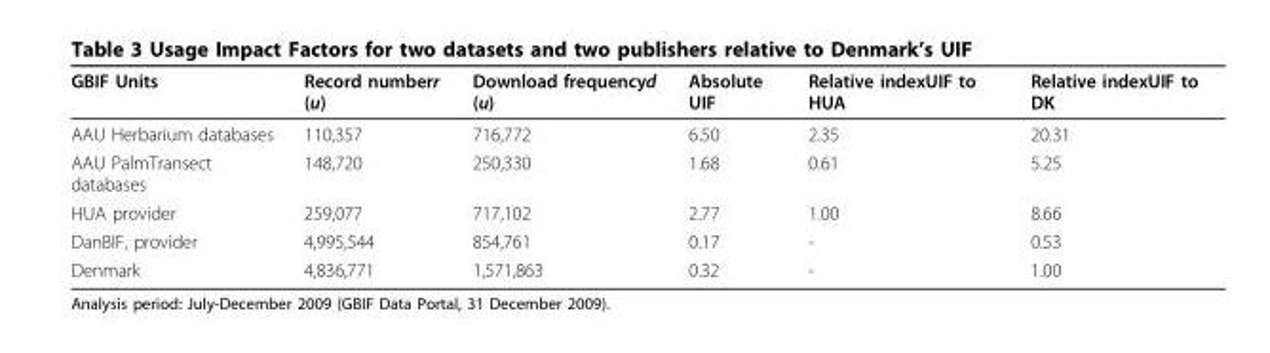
<table><thead><tr><td>GBIF Units</td><td>Record numberr (u)</td><td>Download frequencyd (u)</td><td>Absolute UIF</td><td>Relative indexUIF to HUA</td><td>Relative indexUIF to DK</td></tr></thead><tbody><tr><td>AAU Herbarium databases</td><td>110,357</td><td>716,772</td><td>6.50</td><td>2.35</td><td>20.31</td></tr><tr><td>AAU PalmTransect databases</td><td>148,720</td><td>250,330</td><td>1.68</td><td>0.61</td><td>5.25</td></tr><tr><td>HUA provider</td><td>259,077</td><td>717,102</td><td>2.77</td><td>1.00</td><td>8.66</td></tr><tr><td>DanBIF, provider</td><td>4,995,544</td><td>854,761</td><td>0.17</td><td>-</td><td>0.53</td></tr><tr><td>Denmark</td><td>4,836,771</td><td>1,571,863</td><td>0.32</td><td>-</td><td>1.00</td></tr></tbody></table>